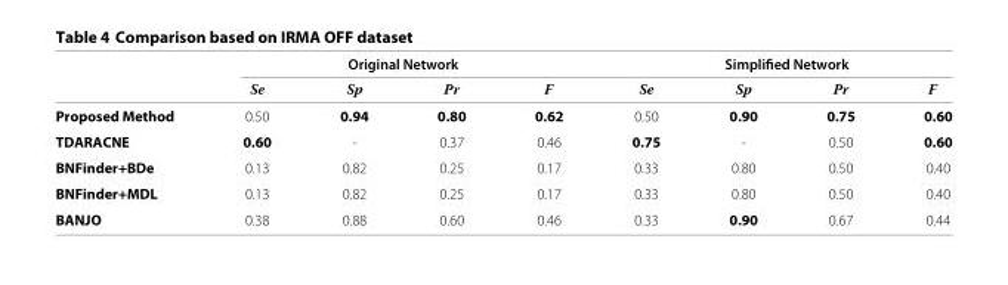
<table><thead><tr><td rowspan="2"></td><td colspan="4">Original Network</td><td colspan="4">Simplified Network</td></tr><tr><td>Se</td><td>Sp</td><td>Pr</td><td>F</td><td>Se</td><td>Sp</td><td>Pr</td><td>F</td></tr></thead><tbody><tr><td>Proposed Method</td><td>0.50</td><td>0.94</td><td>0.80</td><td>0.62</td><td>0.50</td><td>0.90</td><td>0.75</td><td>0.60</td></tr><tr><td>TDARACNE</td><td>0.60</td><td>-</td><td>0.37</td><td>0.46</td><td>0.75</td><td>-</td><td>0.50</td><td>0.60</td></tr><tr><td>BNFinder+BDe</td><td>0.13</td><td>0.82</td><td>0.25</td><td>0.17</td><td>0.33</td><td>0.80</td><td>0.50</td><td>0.40</td></tr><tr><td>BNFinder+MDL</td><td>0.13</td><td>0.82</td><td>0.25</td><td>0.17</td><td>0.33</td><td>0.80</td><td>0.50</td><td>0.40</td></tr><tr><td>BANJO</td><td>0.38</td><td>0.88</td><td>0.60</td><td>0.46</td><td>0.33</td><td>0.90</td><td>0.67</td><td>0.44</td></tr></tbody></table>